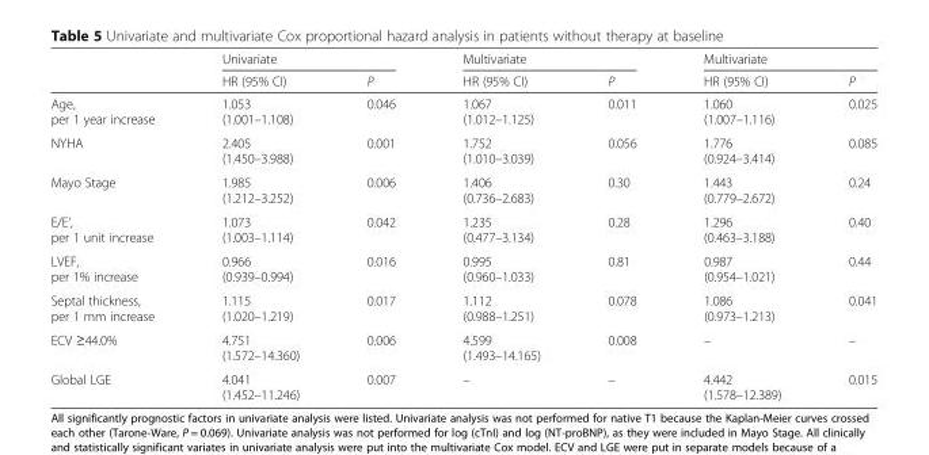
<table><thead><tr><td rowspan="2"></td><td colspan="2">Univariate</td><td colspan="2">Multivariate</td><td colspan="2">Multivariate</td></tr><tr><td>HR (95% CI)</td><td>P</td><td>HR (95% CI)</td><td>P</td><td>HR (95% CI)</td><td>P</td></tr></thead><tbody><tr><td>Age, per 1 year increase</td><td>1.053 (1.001–1.108)</td><td>0.046</td><td>1.067 (1.012–1.125)</td><td>0.011</td><td>1.060 (1.007–1.116)</td><td>0.025</td></tr><tr><td>NYHA</td><td>2.405 (1.450–3.988)</td><td>0.001</td><td>1.752 (1.010–3.039)</td><td>0.056</td><td>1.776 (0.924–3.414)</td><td>0.085</td></tr><tr><td>Mayo Stage</td><td>1.985 (1.212–3.252)</td><td>0.006</td><td>1.406 (0.736–2.683)</td><td>0.30</td><td>1.443 (0.779–2.672)</td><td>0.24</td></tr><tr><td>E/E’, per 1 unit increase</td><td>1.073 (1.003–1.114)</td><td>0.042</td><td>1.235 (0.477–3.134)</td><td>0.28</td><td>1.296 (0.463–3.188)</td><td>0.40</td></tr><tr><td>LVEF, per 1% increase</td><td>0.966 (0.939–0.994)</td><td>0.016</td><td>0.995 (0.960–1.033)</td><td>0.81</td><td>0.987 (0.954–1.021)</td><td>0.44</td></tr><tr><td>Septal thickness, per 1 mm increase</td><td>1.115 (1.020–1.219)</td><td>0.017</td><td>1.112 (0.988–1.251)</td><td>0.078</td><td>1.086 (0.973–1.213)</td><td>0.041</td></tr><tr><td>ECV ≥44.0%</td><td>4.751 (1.572–14.360)</td><td>0.006</td><td>4.599 (1.493–14.165)</td><td>0.008</td><td>–</td><td>–</td></tr><tr><td>Global LGE</td><td>4.041 (1.452–11.246)</td><td>0.007</td><td>–</td><td>–</td><td>4.442 (1.578–12.389)</td><td>0.015</td></tr></tbody></table>